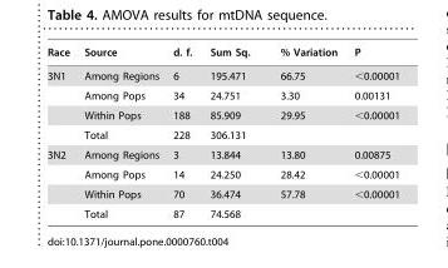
<table><thead><tr><td>Race</td><td>Source</td><td>d. f.</td><td>Sum Sq.</td><td>% Variation</td><td>P</td></tr></thead><tbody><tr><td rowspan="4">3N1</td><td>Among Regions</td><td>6</td><td>195.471</td><td>66.75</td><td>&lt;0.00001</td></tr><tr><td>Among Pops</td><td>34</td><td>24.751</td><td>3.30</td><td>0.00131</td></tr><tr><td>Within Pops</td><td>188</td><td>85.909</td><td>29.95</td><td>&lt;0.00001</td></tr><tr><td>Total</td><td>228</td><td>306.131</td><td></td><td></td></tr><tr><td rowspan="4">3N2</td><td>Among Regions</td><td>3</td><td>13.844</td><td>13.80</td><td>0.00875</td></tr><tr><td>Among Pops</td><td>14</td><td>24.250</td><td>28.42</td><td>&lt;0.00001</td></tr><tr><td>Within Pops</td><td>70</td><td>36.474</td><td>57.78</td><td>&lt;0.00001</td></tr><tr><td>Total</td><td>87</td><td>74.568</td><td></td><td></td></tr></tbody></table>